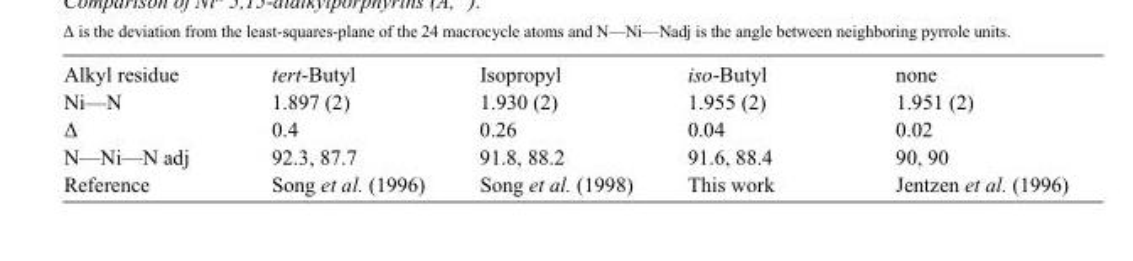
<table><tbody><tr><td>Alkyl residue</td><td>tert-Butyl</td><td>Isopropyl</td><td>iso-Butyl</td><td>none</td></tr><tr><td>Ni—N</td><td>1.897 (2)</td><td>1.930 (2)</td><td>1.955 (2)</td><td>1.951 (2)</td></tr><tr><td>Δ</td><td>0.4</td><td>0.26</td><td>0.04</td><td>0.02</td></tr><tr><td>N—Ni—N adj</td><td>92.3, 87.7</td><td>91.8, 88.2</td><td>91.6, 88.4</td><td>90, 90</td></tr><tr><td>Reference</td><td>Song et al. (1996)</td><td>Song et al. (1998)</td><td>This work</td><td>Jentzen et al. (1996)</td></tr></tbody></table>